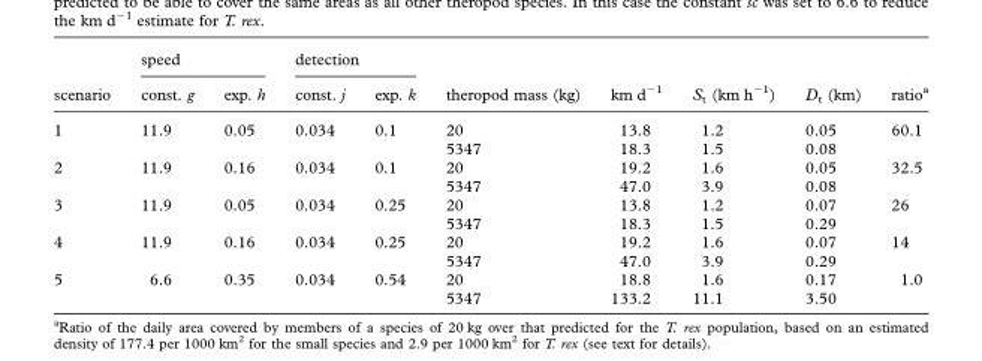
<table><thead><tr><td rowspan="2">scenario</td><td colspan="2">speed</td><td colspan="2">detection</td><td rowspan="2">theropod mass (kg)</td><td rowspan="2">km d<sup>−1</sup></td><td rowspan="2">S<sub>t</sub> (km h<sup>−1</sup>)</td><td rowspan="2">D<sub>t</sub> (km)</td><td rowspan="2">ratio<sup>a</sup></td></tr><tr><td>const. g</td><td>exp. h</td><td>const. j</td><td>exp. k</td></tr></thead><tbody><tr><td rowspan="2">1</td><td rowspan="2">11.9</td><td rowspan="2">0.05</td><td rowspan="2">0.034</td><td rowspan="2">0.1</td><td>20</td><td>13.8</td><td>1.2</td><td>0.05</td><td rowspan="2">60.1</td></tr><tr><td>5347</td><td>18.3</td><td>1.5</td><td>0.08</td></tr><tr><td rowspan="2">2</td><td rowspan="2">11.9</td><td rowspan="2">0.16</td><td rowspan="2">0.034</td><td rowspan="2">0.1</td><td>20</td><td>19.2</td><td>1.6</td><td>0.05</td><td rowspan="2">32.5</td></tr><tr><td>5347</td><td>47.0</td><td>3.9</td><td>0.08</td></tr><tr><td rowspan="2">3</td><td rowspan="2">11.9</td><td rowspan="2">0.05</td><td rowspan="2">0.034</td><td rowspan="2">0.25</td><td>20</td><td>13.8</td><td>1.2</td><td>0.07</td><td rowspan="2">26</td></tr><tr><td>5347</td><td>18.3</td><td>1.5</td><td>0.29</td></tr><tr><td rowspan="2">4</td><td rowspan="2">11.9</td><td rowspan="2">0.16</td><td rowspan="2">0.034</td><td rowspan="2">0.25</td><td>20</td><td>19.2</td><td>1.6</td><td>0.07</td><td rowspan="2">14</td></tr><tr><td>5347</td><td>47.0</td><td>3.9</td><td>0.29</td></tr><tr><td rowspan="2">5</td><td rowspan="2">6.6</td><td rowspan="2">0.35</td><td rowspan="2">0.034</td><td rowspan="2">0.54</td><td>20</td><td>18.8</td><td>1.6</td><td>0.17</td><td rowspan="2">1.0</td></tr><tr><td>5347</td><td>133.2</td><td>11.1</td><td>3.50</td></tr></tbody></table>